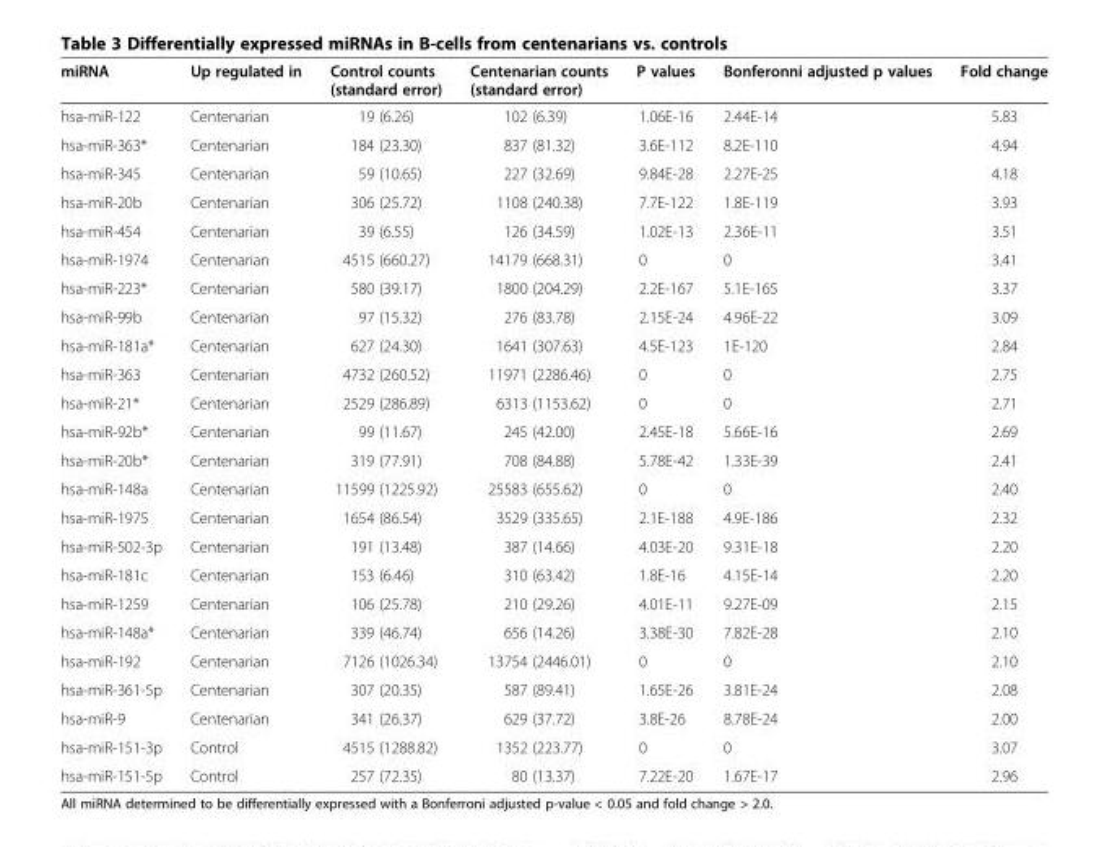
<table><thead><tr><td>miRNA</td><td>Up regulated in</td><td>Control counts (standard error)</td><td>Centenarian counts (standard error)</td><td>P values</td><td>Bonferonni adjusted p values</td><td>Fold change</td></tr></thead><tbody><tr><td>hsa-miR-122</td><td>Centenarian</td><td>19 (6.26)</td><td>102 (6.39)</td><td>1.06E-16</td><td>2.44E-14</td><td>5.83</td></tr><tr><td>hsa-miR-363*</td><td>Centenarian</td><td>184 (23.30)</td><td>837 (81.32)</td><td>3.6E-112</td><td>8.2E-110</td><td>4.94</td></tr><tr><td>hsa-miR-345</td><td>Centenarian</td><td>59 (10.65)</td><td>227 (32.69)</td><td>9.84E-28</td><td>2.27E-25</td><td>4.18</td></tr><tr><td>hsa-miR-20b</td><td>Centenarian</td><td>306 (25.72)</td><td>1108 (240.38)</td><td>7.7E-122</td><td>1.8E-119</td><td>3.93</td></tr><tr><td>hsa-miR-454</td><td>Centenarian</td><td>39 (6.55)</td><td>126 (34.59)</td><td>1.02E-13</td><td>2.36E-11</td><td>3.51</td></tr><tr><td>hsa-miR-1974</td><td>Centenarian</td><td>4515 (660.27)</td><td>14179 (668.31)</td><td>0</td><td>0</td><td>3.41</td></tr><tr><td>hsa-miR-223*</td><td>Centenarian</td><td>580 (39.17)</td><td>1800 (204.29)</td><td>2.2E-167</td><td>5.1E-165</td><td>3.37</td></tr><tr><td>hsa-miR-99b</td><td>Centenarian</td><td>97 (15.32)</td><td>276 (83.78)</td><td>2.15E-24</td><td>4.96E-22</td><td>3.09</td></tr><tr><td>hsa-miR-181a*</td><td>Centenarian</td><td>627 (24.30)</td><td>1641 (307.63)</td><td>4.5E-123</td><td>1E-120</td><td>2.84</td></tr><tr><td>hsa-miR-363</td><td>Centenarian</td><td>4732 (260.52)</td><td>11971 (2286.46)</td><td>0</td><td>0</td><td>2.75</td></tr><tr><td>hsa-miR-21*</td><td>Centenarian</td><td>2529 (286.89)</td><td>6313 (1153.62)</td><td>0</td><td>0</td><td>2.71</td></tr><tr><td>hsa-miR-92b*</td><td>Centenarian</td><td>99 (11.67)</td><td>245 (42.00)</td><td>2.45E-18</td><td>5.66E-16</td><td>2.69</td></tr><tr><td>hsa-miR-20b*</td><td>Centenarian</td><td>319 (77.91)</td><td>708 (84.88)</td><td>5.78E-42</td><td>1.33E-39</td><td>2.41</td></tr><tr><td>hsa-miR-148a</td><td>Centenarian</td><td>11599 (1225.92)</td><td>25583 (655.62)</td><td>0</td><td>0</td><td>2.40</td></tr><tr><td>hsa-miR-1975</td><td>Centenarian</td><td>1654 (86.54)</td><td>3529 (335.65)</td><td>2.1E-188</td><td>4.9E-186</td><td>2.32</td></tr><tr><td>hsa-miR-502-3p</td><td>Centenarian</td><td>191 (13.48)</td><td>387 (14.66)</td><td>4.03E-20</td><td>9.31E-18</td><td>2.20</td></tr><tr><td>hsa-miR-181c</td><td>Centenarian</td><td>153 (6.46)</td><td>310 (63.42)</td><td>1.8E-16</td><td>4.15E-14</td><td>2.20</td></tr><tr><td>hsa-miR-1259</td><td>Centenarian</td><td>106 (25.78)</td><td>210 (29.26)</td><td>4.01E-11</td><td>9.27E-09</td><td>2.15</td></tr><tr><td>hsa-miR-148a*</td><td>Centenarian</td><td>339 (46.74)</td><td>656 (14.26)</td><td>3.38E-30</td><td>7.82E-28</td><td>2.10</td></tr><tr><td>hsa-miR-192</td><td>Centenarian</td><td>7126 (1026.34)</td><td>13754 (2446.01)</td><td>0</td><td>0</td><td>2.10</td></tr><tr><td>hsa-miR-361-5p</td><td>Centenarian</td><td>307 (20.35)</td><td>587 (89.41)</td><td>1.65E-26</td><td>3.81E-24</td><td>2.08</td></tr><tr><td>hsa-miR-9</td><td>Centenarian</td><td>341 (26.37)</td><td>629 (37.72)</td><td>3.8E-26</td><td>8.78E-24</td><td>2.00</td></tr><tr><td>hsa-miR-151-3p</td><td>Control</td><td>4515 (1288.82)</td><td>1352 (223.77)</td><td>0</td><td>0</td><td>3.07</td></tr><tr><td>hsa-miR-151-5p</td><td>Control</td><td>257 (72.35)</td><td>80 (13.37)</td><td>7.22E-20</td><td>1.67E-17</td><td>2.96</td></tr></tbody></table>